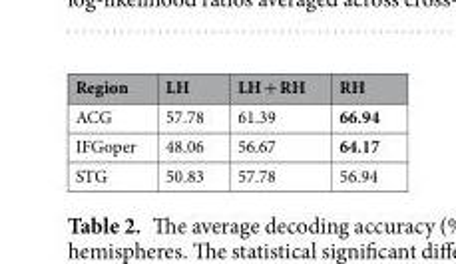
<table><thead><tr><td>Region</td><td>LH</td><td>LH + RH</td><td>RH</td></tr></thead><tbody><tr><td>ACG</td><td>57.78</td><td>61.39</td><td>66.94</td></tr><tr><td>IFGoper</td><td>48.06</td><td>56.67</td><td>64.17</td></tr><tr><td>STG</td><td>50.83</td><td>57.78</td><td>56.94</td></tr></tbody></table>